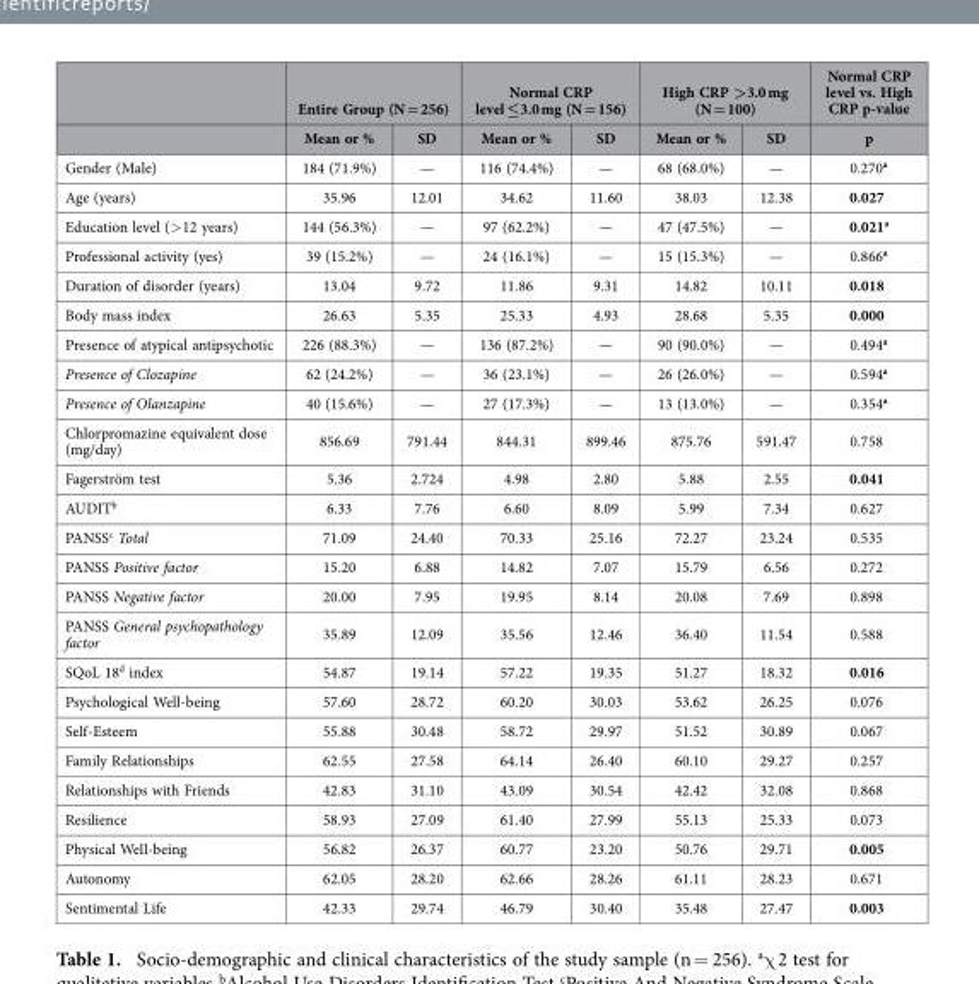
<table><thead><tr><td rowspan="2"></td><td colspan="2">Entire Group (N = 256)</td><td colspan="2">Normal CRP level ≤3.0 mg (N = 156)</td><td colspan="2">High CRP &gt;3.0 mg (N = 100)</td><td rowspan="2">Normal CRP level vs. High CRP p-value p</td></tr><tr><td>Mean or %</td><td>SD</td><td>Mean or %</td><td>SD</td><td>Mean or %</td><td>SD</td></tr></thead><tbody><tr><td>Gender (Male)</td><td>184 (71.9%)</td><td>—</td><td>116 (74.4%)</td><td>—</td><td>68 (68.0%)</td><td>—</td><td>0.270<sup>a</sup></td></tr><tr><td>Age (years)</td><td>35.96</td><td>12.01</td><td>34.62</td><td>11.60</td><td>38.03</td><td>12.38</td><td>0.027</td></tr><tr><td>Education level (&gt; 12 years)</td><td>144 (56.3%)</td><td>—</td><td>97 (62.2%)</td><td>—</td><td>47 (47.5%)</td><td>—</td><td>0.021<sup>a</sup></td></tr><tr><td>Professional activity (yes)</td><td>39 (15.2%)</td><td>—</td><td>24 (16.1%)</td><td>—</td><td>15 (15.3%)</td><td>—</td><td>0.866<sup>a</sup></td></tr><tr><td>Duration of disorder (years)</td><td>13.04</td><td>9.72</td><td>11.86</td><td>9.31</td><td>14.82</td><td>10.11</td><td>0.018</td></tr><tr><td>Body mass index</td><td>26.63</td><td>5.35</td><td>25.33</td><td>4.93</td><td>28.68</td><td>5.35</td><td>0.000</td></tr><tr><td>Presence of atypical antipsychotic</td><td>226 (88.3%)</td><td>—</td><td>136 (87.2%)</td><td>—</td><td>90 (90.0%)</td><td>—</td><td>0.494<sup>a</sup></td></tr><tr><td>Presence of Clozapine</td><td>62 (24.2%)</td><td>—</td><td>36 (23.1%)</td><td>—</td><td>26 (26.0%)</td><td>—</td><td>0.594<sup>a</sup></td></tr><tr><td>Presence of Olanzapine</td><td>40 (15.6%)</td><td>—</td><td>27 (17.3%)</td><td>—</td><td>13 (13.0%)</td><td>—</td><td>0.354<sup>a</sup></td></tr><tr><td>Chlorpromazine equivalent dose (mg/day)</td><td>856.69</td><td>791.44</td><td>844.31</td><td>899.46</td><td>875.76</td><td>591.47</td><td>0.758</td></tr><tr><td>Fagerström test</td><td>5.36</td><td>2.724</td><td>4.98</td><td>2.80</td><td>5.88</td><td>2.55</td><td>0.041</td></tr><tr><td>AUDIT<sup>b</sup></td><td>6.33</td><td>7.76</td><td>6.60</td><td>8.09</td><td>5.99</td><td>7.34</td><td>0.627</td></tr><tr><td>PANSS<sup>c</sup> Total</td><td>71.09</td><td>24.40</td><td>70.33</td><td>25.16</td><td>72.27</td><td>23.24</td><td>0.535</td></tr><tr><td>PANSS Positive factor</td><td>15.20</td><td>6.88</td><td>14.82</td><td>7.07</td><td>15.79</td><td>6.56</td><td>0.272</td></tr><tr><td>PANSS Negative factor</td><td>20.00</td><td>7.95</td><td>19.95</td><td>8.14</td><td>20.08</td><td>7.69</td><td>0.898</td></tr><tr><td>PANSS General psychopathology factor</td><td>35.89</td><td>12.09</td><td>35.56</td><td>12.46</td><td>36.40</td><td>11.54</td><td>0.588</td></tr><tr><td>SQoL 18<sup>d</sup> index</td><td>54.87</td><td>19.14</td><td>57.22</td><td>19.35</td><td>51.27</td><td>18.32</td><td>0.016</td></tr><tr><td>Psychological Well-being</td><td>57.60</td><td>28.72</td><td>60.20</td><td>30.03</td><td>53.62</td><td>26.25</td><td>0.076</td></tr><tr><td>Self-Esteem</td><td>55.88</td><td>30.48</td><td>58.72</td><td>29.97</td><td>51.52</td><td>30.89</td><td>0.067</td></tr><tr><td>Family Relationships</td><td>62.55</td><td>27.58</td><td>64.14</td><td>26.40</td><td>60.10</td><td>29.27</td><td>0.257</td></tr><tr><td>Relationships with Friends</td><td>42.83</td><td>31.10</td><td>43.09</td><td>30.54</td><td>42.42</td><td>32.08</td><td>0.868</td></tr><tr><td>Resilience</td><td>58.93</td><td>27.09</td><td>61.40</td><td>27.99</td><td>55.13</td><td>25.33</td><td>0.073</td></tr><tr><td>Physical Well-being</td><td>56.82</td><td>26.37</td><td>60.77</td><td>23.20</td><td>50.76</td><td>29.71</td><td>0.005</td></tr><tr><td>Autonomy</td><td>62.05</td><td>28.20</td><td>62.66</td><td>28.26</td><td>61.11</td><td>28.23</td><td>0.671</td></tr><tr><td>Sentimental Life</td><td>42.33</td><td>29.74</td><td>46.79</td><td>30.40</td><td>35.48</td><td>27.47</td><td>0.003</td></tr></tbody></table>